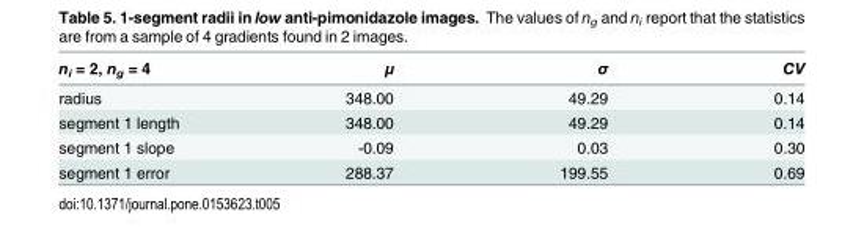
<table><thead><tr><td>n<sub>i</sub> = 2, n<sub>g</sub> = 4</td><td>μ</td><td>σ</td><td>CV</td></tr></thead><tbody><tr><td>radius</td><td>348.00</td><td>49.29</td><td>0.14</td></tr><tr><td>segment 1 length</td><td>348.00</td><td>49.29</td><td>0.14</td></tr><tr><td>segment 1 slope</td><td>-0.09</td><td>0.03</td><td>0.30</td></tr><tr><td>segment 1 error</td><td>288.37</td><td>199.55</td><td>0.69</td></tr></tbody></table>